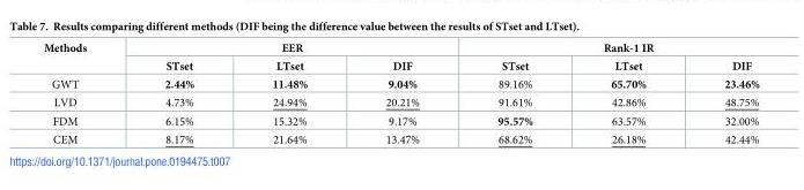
<table><thead><tr><td rowspan="2">Methods</td><td colspan="3">EER</td><td colspan="3">Rank-1 IR</td></tr><tr><td>STset</td><td>LTset</td><td>DIF</td><td>STset</td><td>LTset</td><td>DIF</td></tr></thead><tbody><tr><td>GWT</td><td>2.44%</td><td>11.48%</td><td>9.04%</td><td>89.16%</td><td>65.70%</td><td>23.46%</td></tr><tr><td>LVD</td><td>4.73%</td><td>24.94%</td><td>20.21%</td><td>91.61%</td><td>42.86%</td><td>48.75%</td></tr><tr><td>FDM</td><td>6.15%</td><td>15.32%</td><td>9.17%</td><td>95.57%</td><td>63.57%</td><td>32.00%</td></tr><tr><td>CEM</td><td>8.17%</td><td>21.64%</td><td>13.47%</td><td>68.62%</td><td>26.18%</td><td>42.44%</td></tr></tbody></table>